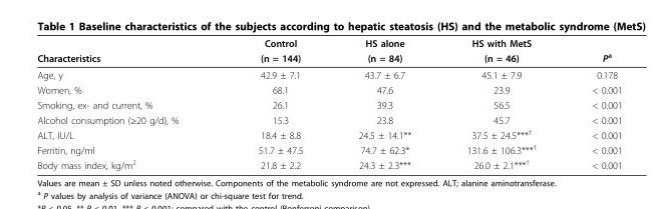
<table><thead><tr><td rowspan="2">Characteristics</td><td rowspan="2">Control (n = 144)</td><td rowspan="2">HS alone (n = 84)</td><td rowspan="2">HS with MetS (n = 46)</td><td rowspan="2">P<sup>a</sup></td></tr><tr></tr></thead><tbody><tr><td>Age, y</td><td>42.9 ± 7.1</td><td>43.7 ± 6.7</td><td>45.1 ± 7.9</td><td>0.178</td></tr><tr><td>Women, %</td><td>68.1</td><td>47.6</td><td>23.9</td><td>&lt; 0.001</td></tr><tr><td>Smoking, ex- and current, %</td><td>26.1</td><td>39.3</td><td>56.5</td><td>&lt; 0.001</td></tr><tr><td>Alcohol consumption (≥20 g/d), %</td><td>15.3</td><td>23.8</td><td>45.7</td><td>&lt; 0.001</td></tr><tr><td>ALT, IU/L</td><td>18.4 ± 8.8</td><td>24.5 ± 14.1**</td><td>37.5 ± 24.5***<sup>†</sup></td><td>&lt; 0.001</td></tr><tr><td>Ferritin, ng/ml</td><td>51.7 ± 47.5</td><td>74.7 ± 62.3*</td><td>131.6 ± 106.3***<sup>†</sup></td><td>&lt; 0.001</td></tr><tr><td>Body mass index, kg/m<sup>2</sup></td><td>21.8 ± 2.2</td><td>24.3 ± 2.3***</td><td>26.0 ± 2.1***<sup>†</sup></td><td>&lt; 0.001</td></tr></tbody></table>